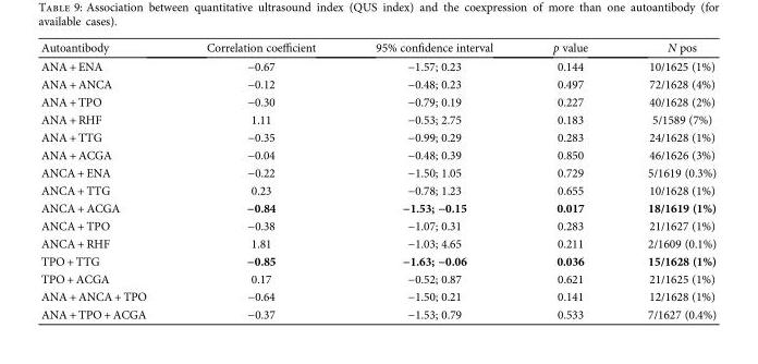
<table><thead><tr><td>Autoantibody</td><td>Correlation coefficient</td><td>95% confidence interval</td><td>p value</td><td>N pos</td></tr></thead><tbody><tr><td>ANA + ENA</td><td>−0.67</td><td>−1.57; 0.23</td><td>0.144</td><td>10/1625 (1%)</td></tr><tr><td>ANA + ANCA</td><td>−0.12</td><td>−0.48; 0.23</td><td>0.497</td><td>72/1628 (4%)</td></tr><tr><td>ANA + TPO</td><td>−0.30</td><td>−0.79; 0.19</td><td>0.227</td><td>40/1628 (2%)</td></tr><tr><td>ANA + RHF</td><td>1.11</td><td>−0.53; 2.75</td><td>0.183</td><td>5/1589 (7%)</td></tr><tr><td>ANA + TTG</td><td>−0.35</td><td>−0.99; 0.29</td><td>0.283</td><td>24/1628 (1%)</td></tr><tr><td>ANA + ACGA</td><td>−0.04</td><td>−0.48; 0.39</td><td>0.850</td><td>46/1626 (3%)</td></tr><tr><td>ANCA + ENA</td><td>−0.22</td><td>−1.50; 1.05</td><td>0.729</td><td>5/1619 (0.3%)</td></tr><tr><td>ANCA + TTG</td><td>0.23</td><td>−0.78; 1.23</td><td>0.655</td><td>10/1628 (1%)</td></tr><tr><td>ANCA + ACGA</td><td>−0.84</td><td>−1.53; −0.15</td><td>0.017</td><td>18/1619 (1%)</td></tr><tr><td>ANCA + TPO</td><td>−0.38</td><td>−1.07; 0.31</td><td>0.283</td><td>21/1627 (1%)</td></tr><tr><td>ANCA + RHF</td><td>1.81</td><td>−1.03; 4.65</td><td>0.211</td><td>2/1609 (0.1%)</td></tr><tr><td>TPO + TTG</td><td>−0.85</td><td>−1.63; −0.06</td><td>0.036</td><td>15/1628 (1%)</td></tr><tr><td>TPO + ACGA</td><td>0.17</td><td>−0.52; 0.87</td><td>0.621</td><td>21/1625 (1%)</td></tr><tr><td>ANA + ANCA + TPO</td><td>−0.64</td><td>−1.50; 0.21</td><td>0.141</td><td>12/1628 (1%)</td></tr><tr><td>ANA + TPO + ACGA</td><td>−0.37</td><td>−1.53; 0.79</td><td>0.533</td><td>7/1627 (0.4%)</td></tr></tbody></table>